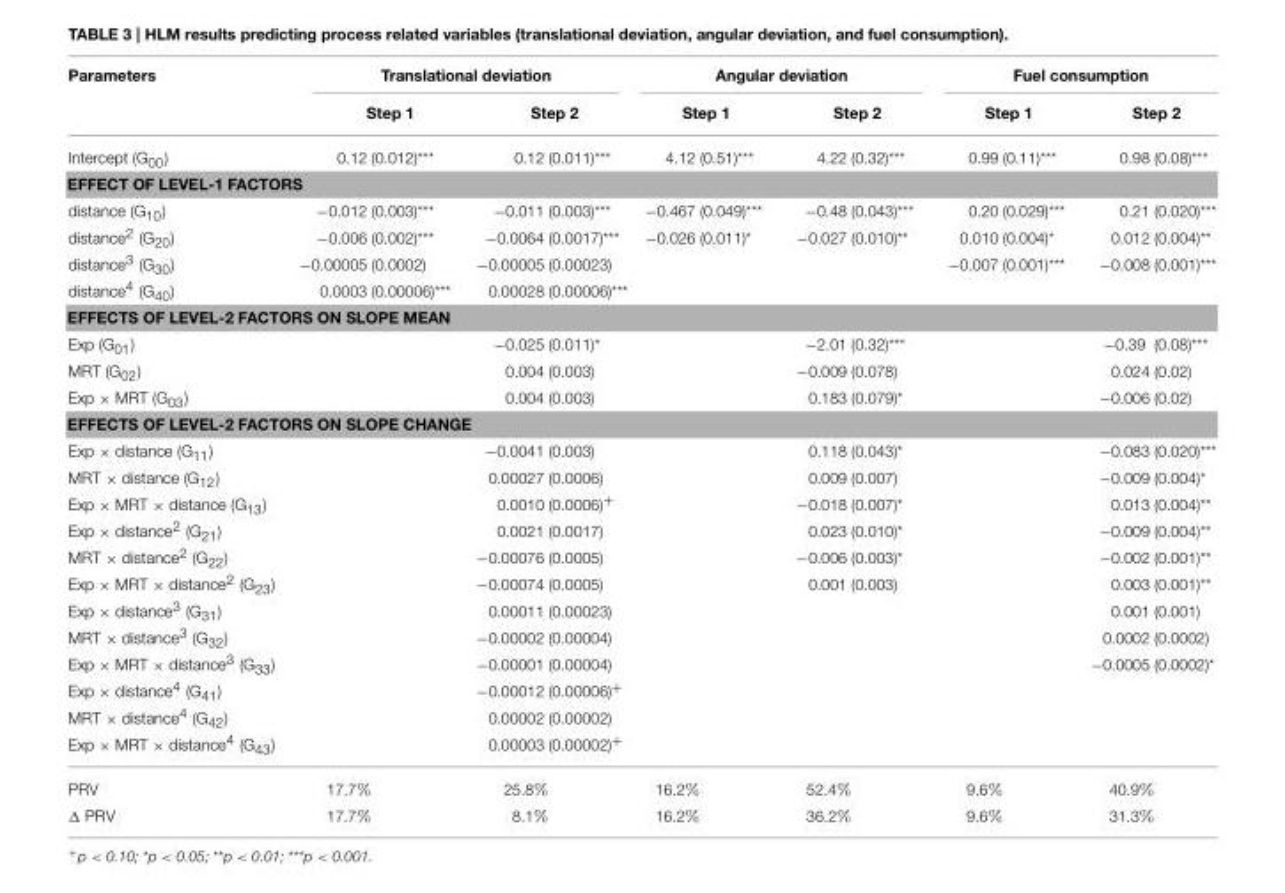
<table><thead><tr><td rowspan="2">Parameters</td><td colspan="2">Translational deviation</td><td colspan="2">Angular deviation</td><td colspan="2">Fuel consumption</td></tr><tr><td>Step 1</td><td>Step 2</td><td>Step 1</td><td>Step 2</td><td>Step 1</td><td>Step 2</td></tr></thead><tbody><tr><td>Intercept (G<sub>00</sub>)</td><td>0.12 (0.012)***</td><td>0.12 (0.011)***</td><td>4.12 (0.51)***</td><td>4.22 (0.32)***</td><td>0.99 (0.11)***</td><td>0.98 (0.08)***</td></tr><tr><td colspan="7">EFFECT OF LEVEL-1 FACTORS</td></tr><tr><td>distance (G<sub>10</sub>)</td><td>−0.012 (0.003)***</td><td>−0.011 (0.003)***</td><td>−0.467 (0.049)***</td><td>−0.48 (0.043)***</td><td>0.20 (0.029)***</td><td>0.21 (0.020)***</td></tr><tr><td>distance<sup>2</sup> (G<sub>20</sub>)</td><td>−0.006 (0.002)***</td><td>−0.0064 (0.0017)***</td><td>−0.026 (0.011)*</td><td>−0.027 (0.010)**</td><td>0.010 (0.004)*</td><td>0.012 (0.004)**</td></tr><tr><td>distance<sup>3</sup> (G<sub>30</sub>)</td><td>−0.00005 (0.0002)</td><td>−0.00005 (0.00023)</td><td></td><td></td><td>−0.007 (0.001)***</td><td>−0.008 (0.001)***</td></tr><tr><td>distance<sup>4</sup> (G<sub>40</sub>)</td><td>0.0003 (0.00006)***</td><td>0.00028 (0.00006)***</td><td></td><td></td><td></td><td></td></tr><tr><td colspan="7">EFFECTS OF LEVEL-2 FACTORS ON SLOPE MEAN</td></tr><tr><td>Exp (G<sub>01</sub>)</td><td></td><td>−0.025 (0.011)*</td><td></td><td>−2.01 (0.32)***</td><td></td><td>−0.39 (0.08)***</td></tr><tr><td>MRT (G<sub>02</sub>)</td><td></td><td>0.004 (0.003)</td><td></td><td>−0.009 (0.078)</td><td></td><td>0.024 (0.02)</td></tr><tr><td>Exp × MRT (G<sub>03</sub>)</td><td></td><td>0.004 (0.003)</td><td></td><td>0.183 (0.079)*</td><td></td><td>−0.006 (0.02)</td></tr><tr><td colspan="7">EFFECTS OF LEVEL-2 FACTORS ON SLOPE CHANGE</td></tr><tr><td>Exp × distance (G<sub>11</sub>)</td><td></td><td>−0.0041 (0.003)</td><td></td><td>0.118 (0.043)*</td><td></td><td>−0.083 (0.020)***</td></tr><tr><td>MRT × distance (G<sub>12</sub>)</td><td></td><td>0.00027 (0.0006)</td><td></td><td>0.009 (0.007)</td><td></td><td>−0.009 (0.004)*</td></tr><tr><td>Exp × MRT × distance (G<sub>13</sub>)</td><td></td><td>0.0010 (0.0006)<sup>+</sup></td><td></td><td>−0.018 (0.007)*</td><td></td><td>0.013 (0.004)**</td></tr><tr><td>Exp × distance<sup>2</sup> (G<sub>21</sub>)</td><td></td><td>0.0021 (0.0017)</td><td></td><td>0.023 (0.010)*</td><td></td><td>−0.009 (0.004)**</td></tr><tr><td>MRT × distance<sup>2</sup> (G<sub>22</sub>)</td><td></td><td>−0.00076 (0.0005)</td><td></td><td>−0.006 (0.003)*</td><td></td><td>−0.002 (0.001)**</td></tr><tr><td>Exp × MRT × distance<sup>2</sup> (G<sub>23</sub>)</td><td></td><td>−0.00074 (0.0005)</td><td></td><td>0.001 (0.003)</td><td></td><td>0.003 (0.001)**</td></tr><tr><td>Exp × distance<sup>3</sup> (G<sub>31</sub>)</td><td></td><td>0.00011 (0.00023)</td><td></td><td></td><td></td><td>0.001 (0.001)</td></tr><tr><td>MRT × distance<sup>3</sup> (G<sub>32</sub>)</td><td></td><td>−0.00002 (0.00004)</td><td></td><td></td><td></td><td>0.0002 (0.0002)</td></tr><tr><td>Exp × MRT × distance<sup>3</sup> (G<sub>33</sub>)</td><td></td><td>−0.00001 (0.00004)</td><td></td><td></td><td></td><td>−0.0005 (0.0002)*</td></tr><tr><td>Exp × distance<sup>4</sup> (G<sub>41</sub>)</td><td></td><td>−0.00012 (0.00006)<sup>+</sup></td><td></td><td></td><td></td><td></td></tr><tr><td>MRT × distance<sup>4</sup> (G<sub>42</sub>)</td><td></td><td>0.00002 (0.00002)</td><td></td><td></td><td></td><td></td></tr><tr><td>Exp × MRT × distance<sup>4</sup> (G<sub>43</sub>)</td><td></td><td>0.00003 (0.00002)<sup>+</sup></td><td></td><td></td><td></td><td></td></tr><tr><td>PRV</td><td>17.7%</td><td>25.8%</td><td>16.2%</td><td>52.4%</td><td>9.6%</td><td>40.9%</td></tr><tr><td>Δ PRV</td><td>17.7%</td><td>8.1%</td><td>16.2%</td><td>36.2%</td><td>9.6%</td><td>31.3%</td></tr></tbody></table>